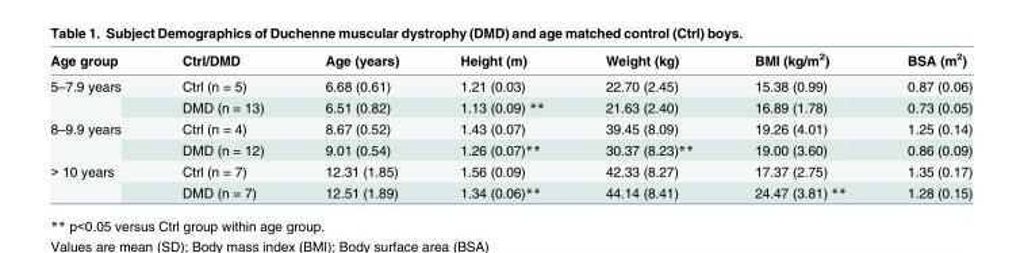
<table><thead><tr><td>Age group</td><td>Ctrl/DMD</td><td>Age (years)</td><td>Height (m)</td><td>Weight (kg)</td><td>BMI (kg/m<sup>2</sup>)</td><td>BSA (m<sup>2</sup>)</td></tr></thead><tbody><tr><td rowspan="2">5–7.9 years</td><td>Ctrl (n = 5)</td><td>6.68 (0.61)</td><td>1.21 (0.03)</td><td>22.70 (2.45)</td><td>15.38 (0.99)</td><td>0.87 (0.06)</td></tr><tr><td>DMD (n = 13)</td><td>6.51 (0.82)</td><td>1.13 (0.09) **</td><td>21.63 (2.40)</td><td>16.89 (1.78)</td><td>0.73 (0.05)</td></tr><tr><td rowspan="2">8–9.9 years</td><td>Ctrl (n = 4)</td><td>8.67 (0.52)</td><td>1.43 (0.07)</td><td>39.45 (8.09)</td><td>19.26 (4.01)</td><td>1.25 (0.14)</td></tr><tr><td>DMD (n = 12)</td><td>9.01 (0.54)</td><td>1.26 (0.07)**</td><td>30.37 (8.23)**</td><td>19.00 (3.60)</td><td>0.86 (0.09)</td></tr><tr><td rowspan="2">&gt; 10 years</td><td>Ctrl (n = 7)</td><td>12.31 (1.85)</td><td>1.56 (0.09)</td><td>42.33 (8.27)</td><td>17.37 (2.75)</td><td>1.35 (0.17)</td></tr><tr><td>DMD (n = 7)</td><td>12.51 (1.89)</td><td>1.34 (0.06)**</td><td>44.14 (8.41)</td><td>24.47 (3.81) **</td><td>1.28 (0.15)</td></tr></tbody></table>